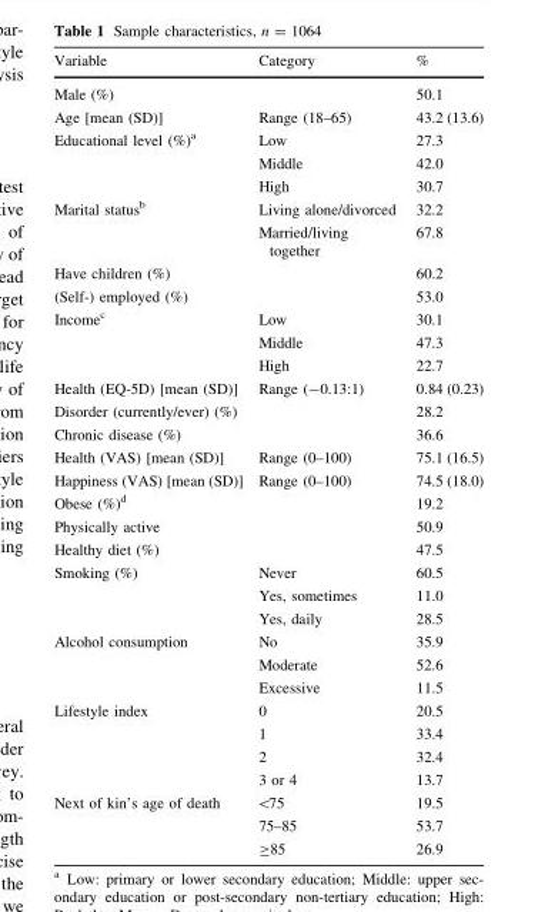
<table><thead><tr><td>Variable</td><td>Category</td><td>%</td></tr></thead><tbody><tr><td>Male (%)</td><td></td><td>50.1</td></tr><tr><td>Age [mean (SD)]</td><td>Range (18–65)</td><td>43.2 (13.6)</td></tr><tr><td rowspan="3">Educational level (%)<sup>a</sup></td><td>Low</td><td>27.3</td></tr><tr><td>Middle</td><td>42.0</td></tr><tr><td>High</td><td>30.7</td></tr><tr><td rowspan="2">Marital status<sup>b</sup></td><td>Living alone/divorced</td><td>32.2</td></tr><tr><td>Married/living together</td><td>67.8</td></tr><tr><td>Have children (%)</td><td></td><td>60.2</td></tr><tr><td>(Self-) employed (%)</td><td></td><td>53.0</td></tr><tr><td rowspan="3">Income<sup>c</sup></td><td>Low</td><td>30.1</td></tr><tr><td>Middle</td><td>47.3</td></tr><tr><td>High</td><td>22.7</td></tr><tr><td>Health (EQ-5D) [mean (SD)]</td><td>Range (-0.13:1)</td><td>0.84 (0.23)</td></tr><tr><td>Disorder (currently/ever) (%)</td><td></td><td>28.2</td></tr><tr><td>Chronic disease (%)</td><td></td><td>36.6</td></tr><tr><td>Health (VAS) [mean (SD)]</td><td>Range (0–100)</td><td>75.1 (16.5)</td></tr><tr><td>Happiness (VAS) [mean (SD)]</td><td>Range (0–100)</td><td>74.5 (18.0)</td></tr><tr><td>Obese (%)<sup>d</sup></td><td></td><td>19.2</td></tr><tr><td>Physically active</td><td></td><td>50.9</td></tr><tr><td>Healthy diet (%)</td><td></td><td>47.5</td></tr><tr><td rowspan="3">Smoking (%)</td><td>Never</td><td>60.5</td></tr><tr><td>Yes, sometimes</td><td>11.0</td></tr><tr><td>Yes, daily</td><td>28.5</td></tr><tr><td rowspan="3">Alcohol consumption</td><td>No</td><td>35.9</td></tr><tr><td>Moderate</td><td>52.6</td></tr><tr><td>Excessive</td><td>11.5</td></tr><tr><td rowspan="4">Lifestyle index</td><td>0</td><td>20.5</td></tr><tr><td>1</td><td>33.4</td></tr><tr><td>2</td><td>32.4</td></tr><tr><td>3 or 4</td><td>13.7</td></tr><tr><td rowspan="3">Next of kin’s age of death</td><td>&lt;75</td><td>19.5</td></tr><tr><td>75–85</td><td>53.7</td></tr><tr><td>≥85</td><td>26.9</td></tr></tbody></table>